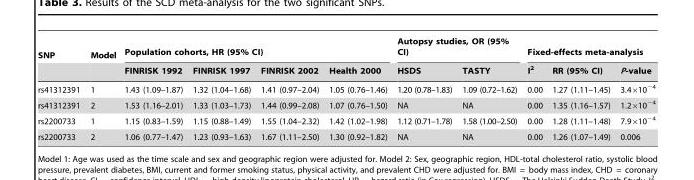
<table><thead><tr><td rowspan="2">SNP</td><td rowspan="2">Model</td><td colspan="4">Population cohorts, HR (95% CI)</td><td colspan="2">Autopsy studies, OR (95% CI)</td><td colspan="3">Fixed-effects meta-analysis</td></tr><tr><td>FINRISK 1992</td><td>FINRISK 1997</td><td>FINRISK 2002</td><td>Health 2000</td><td>HSDS</td><td>TASTY</td><td>I<sup>2</sup></td><td>RR (95% CI)</td><td>P-value</td></tr></thead><tbody><tr><td>rs41312391</td><td>1</td><td>1.43 (1.09–1.87)</td><td>1.32 (1.04–1.68)</td><td>1.41 (0.97–2.04)</td><td>1.05 (0.76–1.46)</td><td>1.20 (0.78–1.83)</td><td>1.09 (0.72–1.62)</td><td>0.00</td><td>1.27 (1.11–1.45)</td><td>3.4×10<sup>−4</sup></td></tr><tr><td>rs41312391</td><td>2</td><td>1.53 (1.16–2.01)</td><td>1.33 (1.03–1.73)</td><td>1.44 (0.99–2.08)</td><td>1.07 (0.76–1.50)</td><td>NA</td><td>NA</td><td>0.00</td><td>1.35 (1.16–1.57)</td><td>1.2×10<sup>−4</sup></td></tr><tr><td>rs2200733</td><td>1</td><td>1.15 (0.83–1.59)</td><td>1.15 (0.88–1.49)</td><td>1.55 (1.04–2.32)</td><td>1.42 (1.02–1.98)</td><td>1.12 (0.71–1.78)</td><td>1.58 (1.00–2.50)</td><td>0.00</td><td>1.28 (1.11–1.48)</td><td>7.9×10<sup>−4</sup></td></tr><tr><td>rs2200733</td><td>2</td><td>1.06 (0.77–1.47)</td><td>1.23 (0.93–1.63)</td><td>1.67 (1.11–2.50)</td><td>1.30 (0.92–1.82)</td><td>NA</td><td>NA</td><td>0.00</td><td>1.26 (1.07–1.49)</td><td>0.006</td></tr></tbody></table>